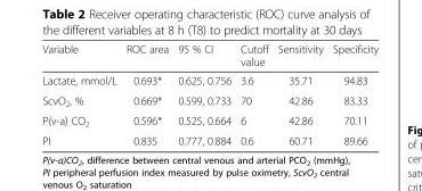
<table><thead><tr><td>Variable</td><td>ROC area</td><td>95 % CI</td><td>Cutoff value</td><td>Sensitivity</td><td>Specificity</td></tr></thead><tbody><tr><td>Lactate, mmol/L</td><td>0.693*</td><td>0.625, 0.756</td><td>3.6</td><td>35.71</td><td>94.83</td></tr><tr><td>ScvO<sub>2</sub>, %</td><td>0.669*</td><td>0.599, 0.733</td><td>70</td><td>42.86</td><td>83.33</td></tr><tr><td>P(v-a) CO<sub>2</sub></td><td>0.596*</td><td>0.525, 0.664</td><td>6</td><td>42.86</td><td>70.11</td></tr><tr><td>PI</td><td>0.835</td><td>0.777, 0.884</td><td>0.6</td><td>60.71</td><td>89.66</td></tr></tbody></table>